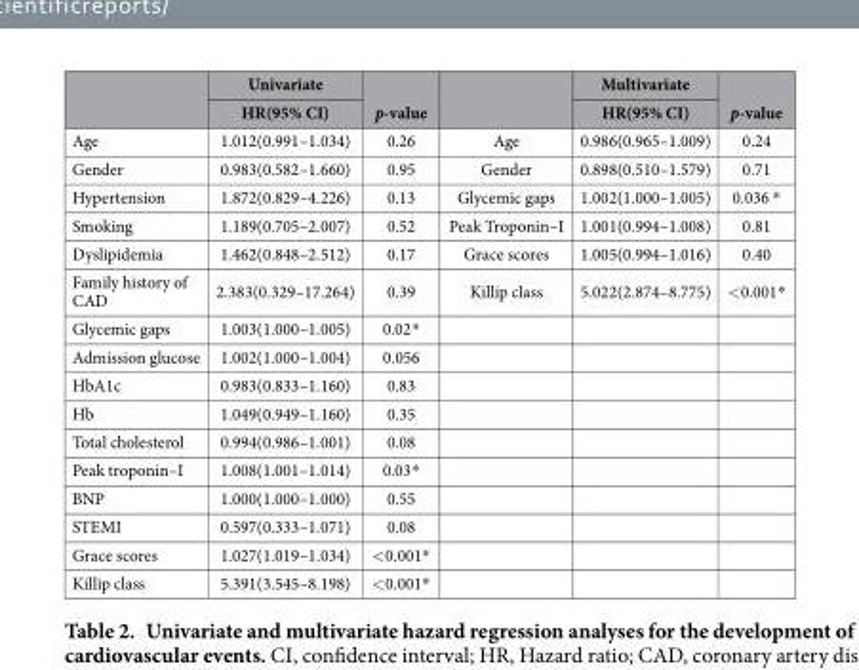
<table><thead><tr><td rowspan="2"></td><td rowspan="2">Univariate HR(95% CI)</td><td rowspan="2">p-value</td><td rowspan="2"></td><td rowspan="2">Multivariate HR(95% CI)</td><td rowspan="2">p-value</td></tr><tr></tr></thead><tbody><tr><td>Age</td><td>1.012(0.991–1.034)</td><td>0.26</td><td>Age</td><td>0.986(0.965–1.009)</td><td>0.24</td></tr><tr><td>Gender</td><td>0.983(0.582–1.660)</td><td>0.95</td><td>Gender</td><td>0.898(0.510–1.579)</td><td>0.71</td></tr><tr><td>Hypertension</td><td>1.872(0.829–4.226)</td><td>0.13</td><td>Glycemic gaps</td><td>1.002(1.000–1.005)</td><td>0.036 *</td></tr><tr><td>Smoking</td><td>1.189(0.705–2.007)</td><td>0.52</td><td>Peak Troponin–I</td><td>1.001(0.994–1.008)</td><td>0.81</td></tr><tr><td>Dyslipidemia</td><td>1.462(0.848–2.512)</td><td>0.17</td><td>Grace scores</td><td>1.005(0.994–1.016)</td><td>0.40</td></tr><tr><td>Family history of CAD</td><td>2.383(0.329–17.264)</td><td>0.39</td><td>Killip class</td><td>5.022(2.874–8.775)</td><td>&lt; 0.001*</td></tr><tr><td>Glycemic gaps</td><td>1.003(1.000–1.005)</td><td>0.02*</td><td></td><td></td><td></td></tr><tr><td>Admission glucose</td><td>1.002(1.000–1.004)</td><td>0.056</td><td></td><td></td><td></td></tr><tr><td>HbA1c</td><td>0.983(0.833–1.160)</td><td>0.83</td><td></td><td></td><td></td></tr><tr><td>Hb</td><td>1.049(0.949–1.160)</td><td>0.35</td><td></td><td></td><td></td></tr><tr><td>Total cholesterol</td><td>0.994(0.986–1.001)</td><td>0.08</td><td></td><td></td><td></td></tr><tr><td>Peak troponin–I</td><td>1.008(1.001–1.014)</td><td>0.03*</td><td></td><td></td><td></td></tr><tr><td>BNP</td><td>1.000(1.000–1.000)</td><td>0.55</td><td></td><td></td><td></td></tr><tr><td>STEMI</td><td>0.597(0.333–1.071)</td><td>0.08</td><td></td><td></td><td></td></tr><tr><td>Grace scores</td><td>1.027(1.019–1.034)</td><td>&lt; 0.001*</td><td></td><td></td><td></td></tr><tr><td>Killip class</td><td>5.391(3.545–8.198)</td><td>&lt; 0.001*</td><td></td><td></td><td></td></tr></tbody></table>